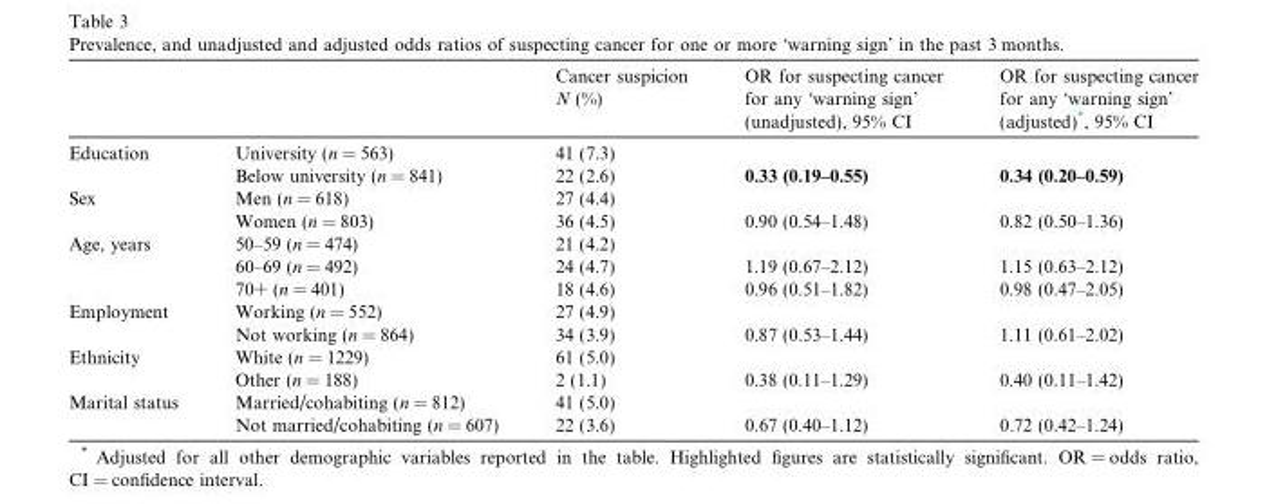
<table><thead><tr><td></td><td></td><td>Cancer suspicion N (%)</td><td>OR for suspecting cancer for any ‘warning sign’ (unadjusted), 95% CI</td><td>OR for suspecting cancer for any ‘warning sign’ (adjusted)*, 95% CI</td></tr></thead><tbody><tr><td rowspan="2">Education</td><td>University (n = 563)</td><td>41 (7.3)</td><td></td><td></td></tr><tr><td>Below university (n = 841)</td><td>22 (2.6)</td><td>0.33 (0.19–0.55)</td><td>0.34 (0.20–0.59)</td></tr><tr><td rowspan="2">Sex</td><td>Men (n = 618)</td><td>27 (4.4)</td><td></td><td></td></tr><tr><td>Women (n = 803)</td><td>36 (4.5)</td><td>0.90 (0.54–1.48)</td><td>0.82 (0.50–1.36)</td></tr><tr><td rowspan="3">Age, years</td><td>50–59 (n = 474)</td><td>21 (4.2)</td><td></td><td></td></tr><tr><td>60–69 (n = 492)</td><td>24 (4.7)</td><td>1.19 (0.67–2.12)</td><td>1.15 (0.63–2.12)</td></tr><tr><td>70+ (n = 401)</td><td>18 (4.6)</td><td>0.96 (0.51–1.82)</td><td>0.98 (0.47–2.05)</td></tr><tr><td rowspan="2">Employment</td><td>Working (n = 552)</td><td>27 (4.9)</td><td></td><td></td></tr><tr><td>Not working (n = 864)</td><td>34 (3.9)</td><td>0.87 (0.53–1.44)</td><td>1.11 (0.61–2.02)</td></tr><tr><td rowspan="2">Ethnicity</td><td>White (n = 1229)</td><td>61 (5.0)</td><td></td><td></td></tr><tr><td>Other (n = 188)</td><td>2 (1.1)</td><td>0.38 (0.11–1.29)</td><td>0.40 (0.11–1.42)</td></tr><tr><td rowspan="2">Marital status</td><td>Married/cohabiting (n = 812)</td><td>41 (5.0)</td><td></td><td></td></tr><tr><td>Not married/cohabiting (n = 607)</td><td>22 (3.6)</td><td>0.67 (0.40–1.12)</td><td>0.72 (0.42–1.24)</td></tr></tbody></table>